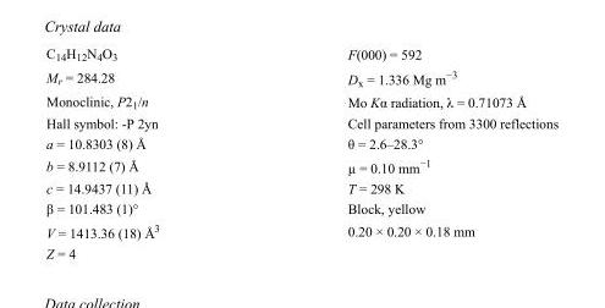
<table><tbody><tr><td>C<sub>14</sub>H<sub>12</sub>N<sub>4</sub>O<sub>3</sub></td><td>F(000) = 592</td></tr><tr><td>M<sub>r</sub> = 284.28</td><td>D<sub>x</sub> = 1.336 Mg m<sup>−3</sup></td></tr><tr><td>Monoclinic, P2<sub>1</sub>/n</td><td>Mo Kα radiation, λ = 0.71073 Å</td></tr><tr><td>Hall symbol: -P 2yn</td><td>Cell parameters from 3300 reflections</td></tr><tr><td>a = 10.8303 (8) Å</td><td>θ = 2.6–28.3°</td></tr><tr><td>b = 8.9112 (7) Å</td><td>µ = 0.10 mm<sup>−1</sup></td></tr><tr><td>c = 14.9437 (11) Å</td><td>T = 298 K</td></tr><tr><td>β = 101.483 (1)°</td><td>Block, yellow</td></tr><tr><td>V = 1413.36 (18) Å<sup>3</sup></td><td>0.20 × 0.20 × 0.18 mm</td></tr><tr><td>Z = 4</td><td></td></tr></tbody></table>